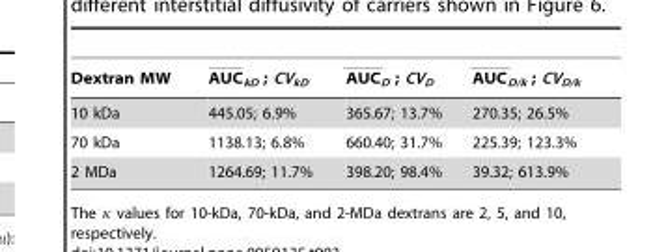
<table><thead><tr><td>Dextran MW</td><td>AUC<sub>kD</sub> ; CV<sub>kD</sub></td><td>AUC<sub>D</sub> ; CV<sub>D</sub></td><td>AUC<sub>D/k</sub> ; CV<sub>D/k</sub></td></tr></thead><tbody><tr><td>10 kDa</td><td>445.05; 6.9%</td><td>365.67; 13.7%</td><td>270.35; 26.5%</td></tr><tr><td>70 kDa</td><td>1138.13; 6.8%</td><td>660.40; 31.7%</td><td>225.39; 123.3%</td></tr><tr><td>2 MDa</td><td>1264.69; 11.7%</td><td>398.20; 98.4%</td><td>39.32; 613.9%</td></tr></tbody></table>